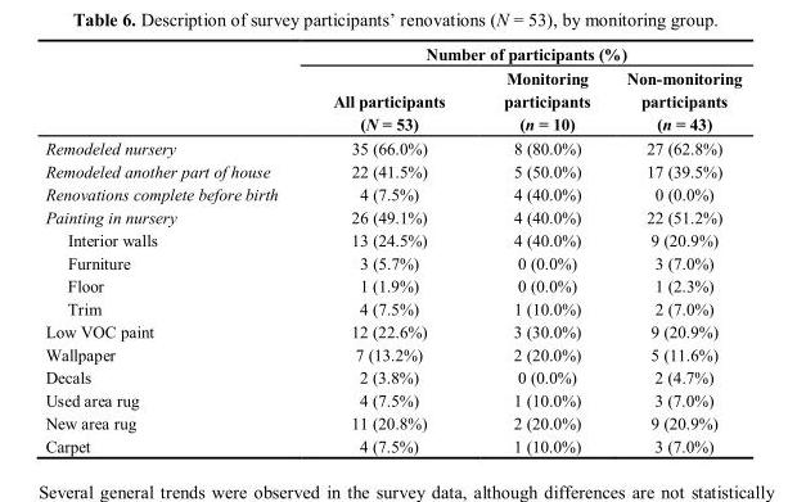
<table><thead><tr><td rowspan="2"></td><td colspan="3">Number of participants (%)</td></tr><tr><td>All participants (N = 53)</td><td>Monitoring participants (n = 10)</td><td>Non-monitoring participants (n = 43)</td></tr></thead><tbody><tr><td>Remodeled nursery</td><td>35 (66.0%)</td><td>8 (80.0%)</td><td>27 (62.8%)</td></tr><tr><td>Remodeled another part of house</td><td>22 (41.5%)</td><td>5 (50.0%)</td><td>17 (39.5%)</td></tr><tr><td>Renovations complete before birth</td><td>4 (7.5%)</td><td>4 (40.0%)</td><td>0 (0.0%)</td></tr><tr><td>Painting in nursery</td><td>26 (49.1%)</td><td>4 (40.0%)</td><td>22 (51.2%)</td></tr><tr><td>Interior walls</td><td>13 (24.5%)</td><td>4 (40.0%)</td><td>9 (20.9%)</td></tr><tr><td>Furniture</td><td>3 (5.7%)</td><td>0 (0.0%)</td><td>3 (7.0%)</td></tr><tr><td>Floor</td><td>1 (1.9%)</td><td>0 (0.0%)</td><td>1 (2.3%)</td></tr><tr><td>Trim</td><td>4 (7.5%)</td><td>1 (10.0%)</td><td>2 (7.0%)</td></tr><tr><td>Low VOC paint</td><td>12 (22.6%)</td><td>3 (30.0%)</td><td>9 (20.9%)</td></tr><tr><td>Wallpaper</td><td>7 (13.2%)</td><td>2 (20.0%)</td><td>5 (11.6%)</td></tr><tr><td>Decals</td><td>2 (3.8%)</td><td>0 (0.0%)</td><td>2 (4.7%)</td></tr><tr><td>Used area rug</td><td>4 (7.5%)</td><td>1 (10.0%)</td><td>3 (7.0%)</td></tr><tr><td>New area rug</td><td>11 (20.8%)</td><td>2 (20.0%)</td><td>9 (20.9%)</td></tr><tr><td>Carpet</td><td>4 (7.5%)</td><td>1 (10.0%)</td><td>3 (7.0%)</td></tr></tbody></table>